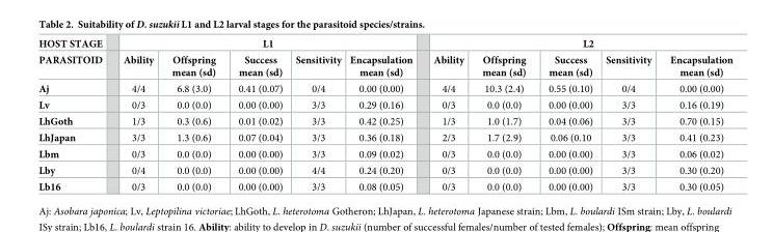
<table><thead><tr><td rowspan="2">HOST STAGE PARASITOID</td><td colspan="5">L1</td><td colspan="5">L2</td></tr><tr><td>Ability</td><td>Offspring mean (sd)</td><td>Success mean (sd)</td><td>Sensitivity</td><td>Encapsulation mean (sd)</td><td>Ability</td><td>Offspring mean (sd)</td><td>Success mean (sd)</td><td>Sensitivity</td><td>Encapsulation mean (sd)</td></tr></thead><tbody><tr><td>Aj</td><td>4/4</td><td>6.8 (3.0)</td><td>0.41 (0.07)</td><td>0/4</td><td>0.00 (0.00)</td><td>4/4</td><td>10.3 (2.4)</td><td>0.55 (0.10)</td><td>0/4</td><td>0.00 (0.00)</td></tr><tr><td>Lv</td><td>0/3</td><td>0.0 (0.0)</td><td>0.00 (0.00)</td><td>3/3</td><td>0.29 (0.16)</td><td>0/3</td><td>0.0 (0.0)</td><td>0.00 (0.00)</td><td>3/3</td><td>0.16 (0.19)</td></tr><tr><td>LhGoth</td><td>1/3</td><td>0.3 (0.6)</td><td>0.01 (0.02)</td><td>3/3</td><td>0.42 (0.25)</td><td>1/3</td><td>1.0 (1.7)</td><td>0.04 (0.06)</td><td>3/3</td><td>0.70 (0.15)</td></tr><tr><td>LhJapan</td><td>3/3</td><td>1.3 (0.6)</td><td>0.07 (0.04)</td><td>3/3</td><td>0.36 (0.18)</td><td>2/3</td><td>1.7 (2.9)</td><td>0.06 (0.10</td><td>3/3</td><td>0.41 (0.23)</td></tr><tr><td>Lbm</td><td>0/3</td><td>0.0 (0.0)</td><td>0.00 (0.00)</td><td>3/3</td><td>0.09 (0.02)</td><td>0/3</td><td>0.0 (0.0)</td><td>0.00 (0.00)</td><td>3/3</td><td>0.06 (0.02)</td></tr><tr><td>Lby</td><td>0/4</td><td>0.0 (0.0)</td><td>0.00 (0.00)</td><td>4/4</td><td>0.24 (0.20)</td><td>0/3</td><td>0.0 (0.0)</td><td>0.00 (0.00)</td><td>3/3</td><td>0.30 (0.20)</td></tr><tr><td>Lb16</td><td>0/3</td><td>0.0 (0.0)</td><td>0.00 (0.00)</td><td>3/3</td><td>0.08 (0.05)</td><td>0/3</td><td>0.0 (0.0)</td><td>0.00 (0.00)</td><td>3/3</td><td>0.30 (0.05)</td></tr></tbody></table>